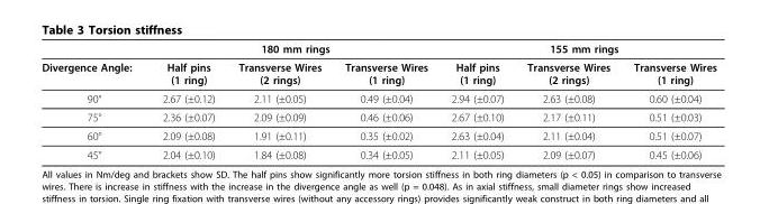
<table><thead><tr><td rowspan="2">Divergence Angle:</td><td colspan="3">180 mm rings</td><td colspan="3">155 mm rings</td></tr><tr><td>Half pins (1 ring)</td><td>Transverse Wires (2 rings)</td><td>Transverse Wires (1 ring)</td><td>Half pins (1 ring)</td><td>Transverse Wires (2 rings)</td><td>Transverse Wires (1 ring)</td></tr></thead><tbody><tr><td>90°</td><td>2.67 (±0.12)</td><td>2.11 (±0.05)</td><td>0.49 (±0.04)</td><td>2.94 (±0.07)</td><td>2.63 (±0.08)</td><td>0.60 (±0.04)</td></tr><tr><td>75°</td><td>2.36 (±0.07)</td><td>2.09 (±0.09)</td><td>0.46 (±0.06)</td><td>2.67 (±0.10)</td><td>2.17 (±0.11)</td><td>0.51 (±0.03)</td></tr><tr><td>60°</td><td>2.09 (±0.08)</td><td>1.91 (±0.11)</td><td>0.35 (±0.02)</td><td>2.63 (±0.04)</td><td>2.11 (±0.04)</td><td>0.51 (±0.07)</td></tr><tr><td>45°</td><td>2.04 (±0.10)</td><td>1.84 (±0.08)</td><td>0.34 (±0.05)</td><td>2.11 (±0.05)</td><td>2.09 (±0.07)</td><td>0.45 (±0.06)</td></tr></tbody></table>